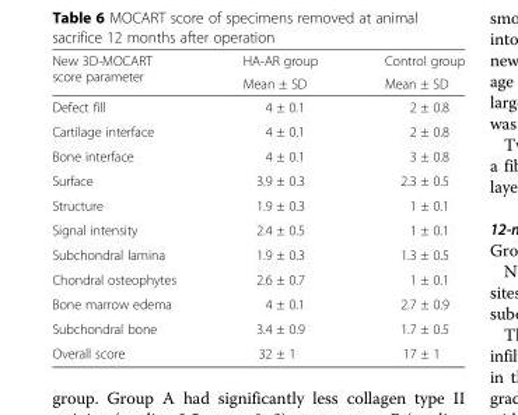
<table><thead><tr><td rowspan="2">New 3D-MOCART score parameter</td><td rowspan="2">HA-AR group Mean ± SD</td><td rowspan="2">Control group Mean ± SD</td></tr><tr></tr></thead><tbody><tr><td>Defect fill</td><td>4 ± 0.1</td><td>2 ± 0.8</td></tr><tr><td>Cartilage interface</td><td>4 ± 0.1</td><td>2 ± 0.8</td></tr><tr><td>Bone interface</td><td>4 ± 0.1</td><td>3 ± 0.8</td></tr><tr><td>Surface</td><td>3.9 ± 0.3</td><td>2.3 ± 0.5</td></tr><tr><td>Structure</td><td>1.9 ± 0.3</td><td>1 ± 0.1</td></tr><tr><td>Signal intensity</td><td>2.4 ± 0.5</td><td>1 ± 0.1</td></tr><tr><td>Subchondral lamina</td><td>1.9 ± 0.3</td><td>1.3 ± 0.5</td></tr><tr><td>Chondral osteophytes</td><td>2.6 ± 0.7</td><td>1 ± 0.1</td></tr><tr><td>Bone marrow edema</td><td>4 ± 0.1</td><td>2.7 ± 0.9</td></tr><tr><td>Subchondral bone</td><td>3.4 ± 0.9</td><td>1.7 ± 0.5</td></tr><tr><td>Overall score</td><td>32 ± 1</td><td>17 ± 1</td></tr></tbody></table>